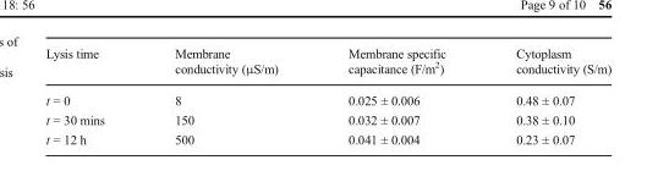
<table><thead><tr><td>Lysis time</td><td>Membrane conductivity (μS/m)</td><td>Membrane specific capacitance (F/m<sup>2</sup>)</td><td>Cytoplasm conductivity (S/m)</td></tr></thead><tbody><tr><td>t = 0</td><td>8</td><td>0.025 ± 0.006</td><td>0.48 ± 0.07</td></tr><tr><td>t = 30 mins</td><td>150</td><td>0.032 ± 0.007</td><td>0.38 ± 0.10</td></tr><tr><td>t = 12 h</td><td>500</td><td>0.041 ± 0.004</td><td>0.23 ± 0.07</td></tr></tbody></table>